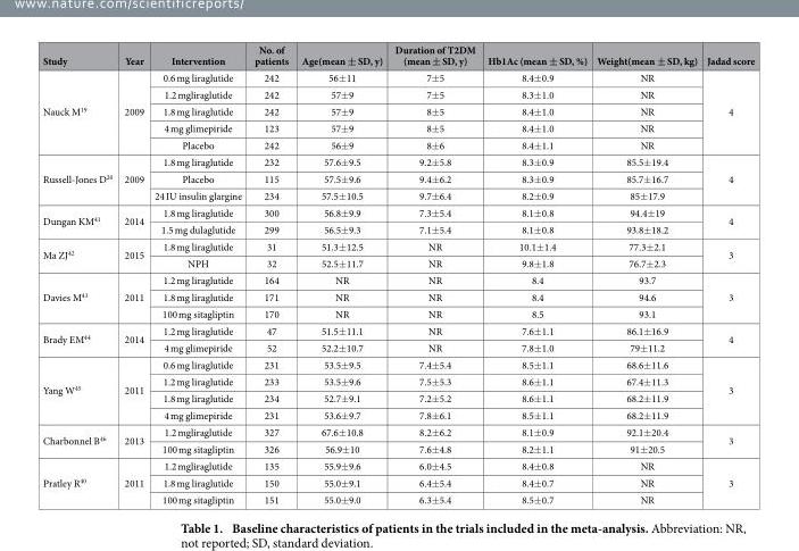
<table><thead><tr><td>Study</td><td>Year</td><td>Intervention</td><td>No. of patients</td><td>Age(mean ± SD, y)</td><td>Duration of T2DM (mean ± SD, y)</td><td>Hb1Ac (mean ± SD, %)</td><td>Weight(mean ± SD, kg)</td><td>Jadad score</td></tr></thead><tbody><tr><td rowspan="5">Nauck M<sup>19</sup></td><td rowspan="5">2009</td><td>0.6 mg liraglutide</td><td>242</td><td>56± 11</td><td>7± 5</td><td>8.4± 0.9</td><td>NR</td><td rowspan="5">4</td></tr><tr><td>1.2 mgliraglutide</td><td>242</td><td>57± 9</td><td>7± 5</td><td>8.3± 1.0</td><td>NR</td></tr><tr><td>1.8 mg liraglutide</td><td>242</td><td>57± 9</td><td>8± 5</td><td>8.4± 1.0</td><td>NR</td></tr><tr><td>4 mg glimepiride</td><td>123</td><td>57± 9</td><td>8± 5</td><td>8.4± 1.0</td><td>NR</td></tr><tr><td>Placebo</td><td>242</td><td>56± 9</td><td>8± 6</td><td>8.4± 1.1</td><td>NR</td></tr><tr><td rowspan="3">Russell-Jones D<sup>20</sup></td><td rowspan="3">2009</td><td>1.8 mg liraglutide</td><td>232</td><td>57.6± 9.5</td><td>9.2± 5.8</td><td>8.3± 0.9</td><td>85.5± 19.4</td><td rowspan="3">4</td></tr><tr><td>Placebo</td><td>115</td><td>57.5± 9.6</td><td>9.4± 6.2</td><td>8.3± 0.9</td><td>85.7± 16.7</td></tr><tr><td>24 IU insulin glargine</td><td>234</td><td>57.5± 10.5</td><td>9.7± 6.4</td><td>8.2± 0.9</td><td>85± 17.9</td></tr><tr><td rowspan="2">Dungan KM<sup>41</sup></td><td rowspan="2">2014</td><td>1.8 mg liraglutide</td><td>300</td><td>56.8± 9.9</td><td>7.3± 5.4</td><td>8.1± 0.8</td><td>94.4± 19</td><td rowspan="2">4</td></tr><tr><td>1.5 mg dulaglutide</td><td>299</td><td>56.5± 9.3</td><td>7.1± 5.4</td><td>8.1± 0.8</td><td>93.8± 18.2</td></tr><tr><td rowspan="2">Ma ZJ<sup>42</sup></td><td rowspan="2">2015</td><td>1.8 mg liraglutide</td><td>31</td><td>51.3± 12.5</td><td>NR</td><td>10.1± 1.4</td><td>77.3± 2.1</td><td rowspan="2">3</td></tr><tr><td>NPH</td><td>32</td><td>52.5± 11.7</td><td>NR</td><td>9.8± 1.8</td><td>76.7± 2.3</td></tr><tr><td rowspan="3">Davies M<sup>43</sup></td><td rowspan="3">2011</td><td>1.2 mg liraglutide</td><td>164</td><td>NR</td><td>NR</td><td>8.4</td><td>93.7</td><td rowspan="3">3</td></tr><tr><td>1.8 mg liraglutide</td><td>171</td><td>NR</td><td>NR</td><td>8.4</td><td>94.6</td></tr><tr><td>100 mg sitagliptin</td><td>170</td><td>NR</td><td>NR</td><td>8.5</td><td>93.1</td></tr><tr><td rowspan="2">Brady EM<sup>44</sup></td><td rowspan="2">2014</td><td>1.2 mg liraglutide</td><td>47</td><td>51.5± 11.1</td><td>NR</td><td>7.6± 1.1</td><td>86.1± 16.9</td><td rowspan="2">4</td></tr><tr><td>4 mg glimepiride</td><td>52</td><td>52.2± 10.7</td><td>NR</td><td>7.8± 1.0</td><td>79± 11.2</td></tr><tr><td rowspan="4">Yang W<sup>45</sup></td><td rowspan="4">2011</td><td>0.6 mg liraglutide</td><td>231</td><td>53.5± 9.5</td><td>7.4± 5.4</td><td>8.5± 1.1</td><td>68.6± 11.6</td><td rowspan="4">3</td></tr><tr><td>1.2 mg liraglutide</td><td>233</td><td>53.5± 9.6</td><td>7.5± 5.3</td><td>8.6± 1.1</td><td>67.4± 11.3</td></tr><tr><td>1.8 mg liraglutide</td><td>234</td><td>52.7± 9.1</td><td>7.2± 5.2</td><td>8.6± 1.1</td><td>68.2± 11.9</td></tr><tr><td>4 mg glimepiride</td><td>231</td><td>53.6± 9.7</td><td>7.8± 6.1</td><td>8.5± 1.1</td><td>68.2± 11.9</td></tr><tr><td rowspan="2">Charbonnel B<sup>46</sup></td><td rowspan="2">2013</td><td>1.2 mgliraglutide</td><td>327</td><td>67.6± 10.8</td><td>8.2± 6.2</td><td>8.1± 0.9</td><td>92.1± 20.4</td><td rowspan="2">3</td></tr><tr><td>100 mg sitagliptin</td><td>326</td><td>56.9± 10</td><td>7.6± 4.8</td><td>8.2± 1.1</td><td>91± 20.5</td></tr><tr><td rowspan="3">Pratley R<sup>40</sup></td><td rowspan="3">2011</td><td>1.2 mgliraglutide</td><td>135</td><td>55.9± 9.6</td><td>6.0± 4.5</td><td>8.4± 0.8</td><td>NR</td><td rowspan="3">3</td></tr><tr><td>1.8 mg liraglutide</td><td>150</td><td>55.0± 9.1</td><td>6.4± 5.4</td><td>8.4± 0.7</td><td>NR</td></tr><tr><td>100 mg sitagliptin</td><td>151</td><td>55.0± 9.0</td><td>6.3± 5.4</td><td>8.5± 0.7</td><td>NR</td></tr></tbody></table>